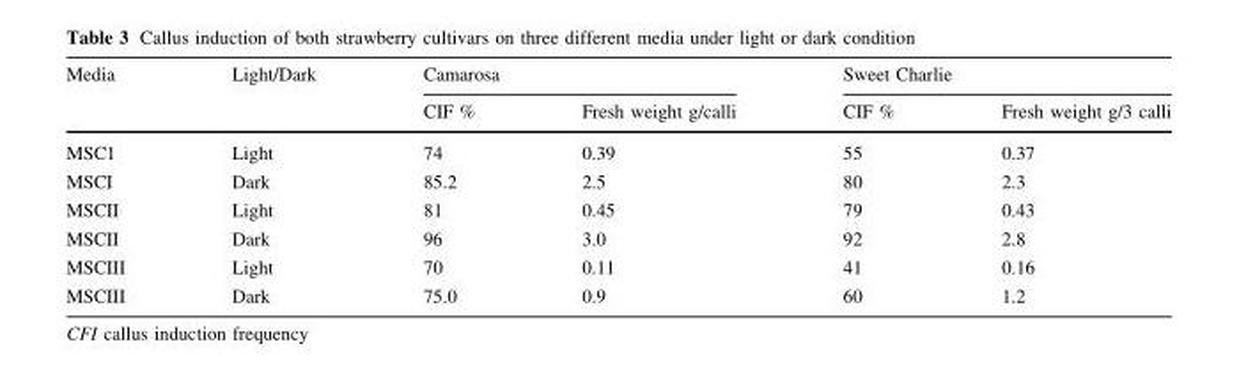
<table><thead><tr><td rowspan="2">Media</td><td rowspan="2">Light/Dark</td><td colspan="2">Camarosa</td><td colspan="2">Sweet Charlie</td></tr><tr><td>CIF %</td><td>Fresh weight g/calli</td><td>CIF %</td><td>Fresh weight g/3 calli</td></tr></thead><tbody><tr><td>MSC1</td><td>Light</td><td>74</td><td>0.39</td><td>55</td><td>0.37</td></tr><tr><td>MSCI</td><td>Dark</td><td>85.2</td><td>2.5</td><td>80</td><td>2.3</td></tr><tr><td>MSCII</td><td>Light</td><td>81</td><td>0.45</td><td>79</td><td>0.43</td></tr><tr><td>MSCII</td><td>Dark</td><td>96</td><td>3.0</td><td>92</td><td>2.8</td></tr><tr><td>MSCIII</td><td>Light</td><td>70</td><td>0.11</td><td>41</td><td>0.16</td></tr><tr><td>MSCIII</td><td>Dark</td><td>75.0</td><td>0.9</td><td>60</td><td>1.2</td></tr></tbody></table>